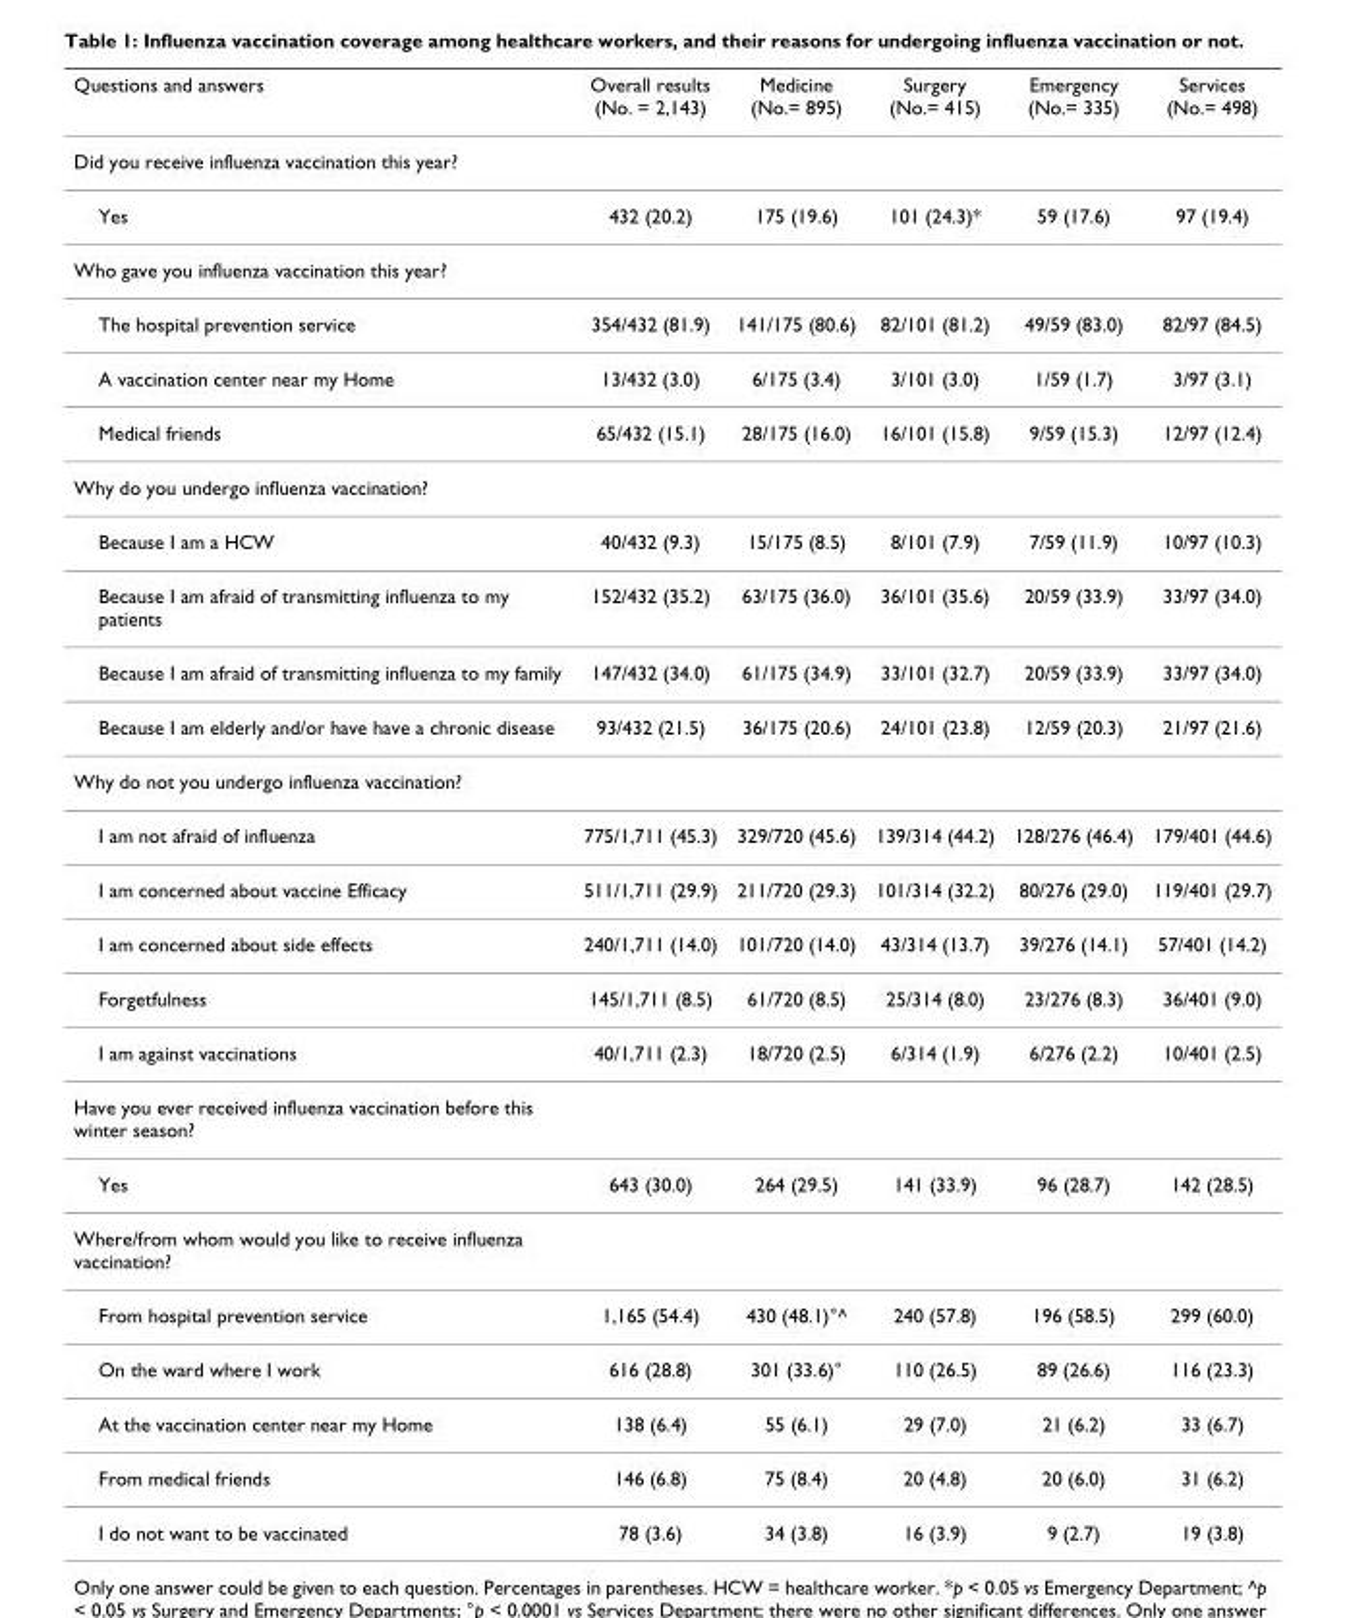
<table><thead><tr><td>Questions and answers</td><td>Overall results (No. = 2,143)</td><td>Medicine (No.= 895)</td><td>Surgery (No.= 415)</td><td>Emergency (No.= 335)</td><td>Services (No.= 498)</td></tr></thead><tbody><tr><td colspan="6">Did you receive influenza vaccination this year?</td></tr><tr><td>Yes</td><td>432 (20.2)</td><td>175 (19.6)</td><td>101 (24.3)*</td><td>59 (17.6)</td><td>97 (19.4)</td></tr><tr><td colspan="6">Who gave you influenza vaccination this year?</td></tr><tr><td>The hospital prevention service</td><td>354/432 (81.9)</td><td>141/175 (80.6)</td><td>82/101 (81.2)</td><td>49/59 (83.0)</td><td>82/97 (84.5)</td></tr><tr><td>A vaccination center near my Home</td><td>13/432 (3.0)</td><td>6/175 (3.4)</td><td>3/101 (3.0)</td><td>1/59 (1.7)</td><td>3/97 (3.1)</td></tr><tr><td>Medical friends</td><td>65/432 (15.1)</td><td>28/175 (16.0)</td><td>16/101 (15.8)</td><td>9/59 (15.3)</td><td>12/97 (12.4)</td></tr><tr><td colspan="6">Why do you undergo influenza vaccination?</td></tr><tr><td>Because I am a HCW</td><td>40/432 (9.3)</td><td>15/175 (8.5)</td><td>8/101 (7.9)</td><td>7/59 (11.9)</td><td>10/97 (10.3)</td></tr><tr><td>Because I am afraid of transmitting influenza to my patients</td><td>152/432 (35.2)</td><td>63/175 (36.0)</td><td>36/101 (35.6)</td><td>20/59 (33.9)</td><td>33/97 (34.0)</td></tr><tr><td>Because I am afraid of transmitting influenza to my family</td><td>147/432 (34.0)</td><td>61/175 (34.9)</td><td>33/101 (32.7)</td><td>20/59 (33.9)</td><td>33/97 (34.0)</td></tr><tr><td>Because I am elderly and/or have have a chronic disease</td><td>93/432 (21.5)</td><td>36/175 (20.6)</td><td>24/101 (23.8)</td><td>12/59 (20.3)</td><td>21/97 (21.6)</td></tr><tr><td colspan="6">Why do not you undergo influenza vaccination?</td></tr><tr><td>I am not afraid of influenza</td><td>775/1,711 (45.3)</td><td>329/720 (45.6)</td><td>139/314 (44.2)</td><td>128/276 (46.4)</td><td>179/401 (44.6)</td></tr><tr><td>I am concerned about vaccine Efficacy</td><td>511/1,711 (29.9)</td><td>211/720 (29.3)</td><td>101/314 (32.2)</td><td>80/276 (29.0)</td><td>119/401 (29.7)</td></tr><tr><td>I am concerned about side effects</td><td>240/1,711 (14.0)</td><td>101/720 (14.0)</td><td>43/314 (13.7)</td><td>39/276 (14.1)</td><td>57/401 (14.2)</td></tr><tr><td>Forgetfulness</td><td>145/1,711 (8.5)</td><td>61/720 (8.5)</td><td>25/314 (8.0)</td><td>23/276 (8.3)</td><td>36/401 (9.0)</td></tr><tr><td>I am against vaccinations</td><td>40/1,711 (2.3)</td><td>18/720 (2.5)</td><td>6/314 (1.9)</td><td>6/276 (2.2)</td><td>10/401 (2.5)</td></tr><tr><td colspan="6">Have you ever received influenza vaccination before this winter season?</td></tr><tr><td>Yes</td><td>643 (30.0)</td><td>264 (29.5)</td><td>141 (33.9)</td><td>96 (28.7)</td><td>142 (28.5)</td></tr><tr><td colspan="6">Where/from whom would you like to receive influenza vaccination?</td></tr><tr><td>From hospital prevention service</td><td>1,165 (54.4)</td><td>430 (48.1)°^</td><td>240 (57.8)</td><td>196 (58.5)</td><td>299 (60.0)</td></tr><tr><td>On the ward where I work</td><td>616 (28.8)</td><td>301 (33.6)°</td><td>110 (26.5)</td><td>89 (26.6)</td><td>116 (23.3)</td></tr><tr><td>At the vaccination center near my Home</td><td>138 (6.4)</td><td>55 (6.1)</td><td>29 (7.0)</td><td>21 (6.2)</td><td>33 (6.7)</td></tr><tr><td>From medical friends</td><td>146 (6.8)</td><td>75 (8.4)</td><td>20 (4.8)</td><td>20 (6.0)</td><td>31 (6.2)</td></tr><tr><td>I do not want to be vaccinated</td><td>78 (3.6)</td><td>34 (3.8)</td><td>16 (3.9)</td><td>9 (2.7)</td><td>19 (3.8)</td></tr></tbody></table>